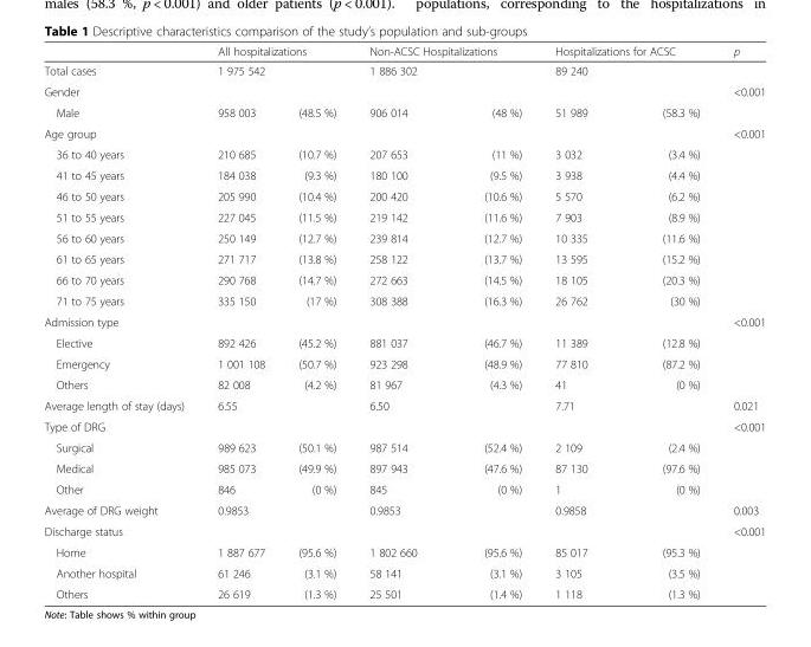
<table><thead><tr><td rowspan="2">Total cases</td><td colspan="2">All hospitalizations</td><td colspan="2">Non-ACSC Hospitalizations</td><td colspan="2">Hospitalizations for ACSC</td><td rowspan="2">p</td></tr><tr><td>1 975 542</td><td></td><td>1 886 302</td><td></td><td>89 240</td><td></td></tr></thead><tbody><tr><td>Gender</td><td></td><td></td><td></td><td></td><td></td><td></td><td>&lt;0.001</td></tr><tr><td>Male</td><td>958 003</td><td>(48.5 %)</td><td>906 014</td><td>(48 %)</td><td>51 989</td><td>(58.3 %)</td><td></td></tr><tr><td>Age group</td><td></td><td></td><td></td><td></td><td></td><td></td><td>&lt;0.001</td></tr><tr><td>36 to 40 years</td><td>210 685</td><td>(10.7 %)</td><td>207 653</td><td>(11 %)</td><td>3 032</td><td>(3.4 %)</td><td></td></tr><tr><td>41 to 45 years</td><td>184 038</td><td>(9.3 %)</td><td>180 100</td><td>(9.5 %)</td><td>3 938</td><td>(4.4 %)</td><td></td></tr><tr><td>46 to 50 years</td><td>205 990</td><td>(10.4 %)</td><td>200 420</td><td>(10.6 %)</td><td>5 570</td><td>(6.2 %)</td><td></td></tr><tr><td>51 to 55 years</td><td>227 045</td><td>(11.5 %)</td><td>219 142</td><td>(11.6 %)</td><td>7 903</td><td>(8.9 %)</td><td></td></tr><tr><td>56 to 60 years</td><td>250 149</td><td>(12.7 %)</td><td>239 814</td><td>(12.7 %)</td><td>10 335</td><td>(11.6 %)</td><td></td></tr><tr><td>61 to 65 years</td><td>271 717</td><td>(13.8 %)</td><td>258 122</td><td>(13.7 %)</td><td>13 595</td><td>(15.2 %)</td><td></td></tr><tr><td>66 to 70 years</td><td>290 768</td><td>(14.7 %)</td><td>272 663</td><td>(14.5 %)</td><td>18 105</td><td>(20.3 %)</td><td></td></tr><tr><td>71 to 75 years</td><td>335 150</td><td>(17 %)</td><td>308 388</td><td>(16.3 %)</td><td>26 762</td><td>(30 %)</td><td></td></tr><tr><td>Admission type</td><td></td><td></td><td></td><td></td><td></td><td></td><td>&lt;0.001</td></tr><tr><td>Elective</td><td>892 426</td><td>(45.2 %)</td><td>881 037</td><td>(46.7 %)</td><td>11 389</td><td>(12.8 %)</td><td></td></tr><tr><td>Emergency</td><td>1 001 108</td><td>(50.7 %)</td><td>923 298</td><td>(48.9 %)</td><td>77 810</td><td>(87.2 %)</td><td></td></tr><tr><td>Others</td><td>82 008</td><td>(4.2 %)</td><td>81 967</td><td>(4.3 %)</td><td>41</td><td>(0 %)</td><td></td></tr><tr><td>Average length of stay (days)</td><td>6.55</td><td></td><td>6.50</td><td></td><td>7.71</td><td></td><td>0.021</td></tr><tr><td>Type of DRG</td><td></td><td></td><td></td><td></td><td></td><td></td><td>&lt;0.001</td></tr><tr><td>Surgical</td><td>989 623</td><td>(50.1 %)</td><td>987 514</td><td>(52.4 %)</td><td>2 109</td><td>(2.4 %)</td><td></td></tr><tr><td>Medical</td><td>985 073</td><td>(49.9 %)</td><td>897 943</td><td>(47.6 %)</td><td>87 130</td><td>(97.6 %)</td><td></td></tr><tr><td>Other</td><td>846</td><td>(0 %)</td><td>845</td><td>(0 %)</td><td>1</td><td>(0 %)</td><td></td></tr><tr><td>Average of DRG weight</td><td>0.9853</td><td></td><td>0.9853</td><td></td><td>0.9858</td><td></td><td>0.003</td></tr><tr><td>Discharge status</td><td></td><td></td><td></td><td></td><td></td><td></td><td>&lt;0.001</td></tr><tr><td>Home</td><td>1 887 677</td><td>(95.6 %)</td><td>1 802 660</td><td>(95.6 %)</td><td>85 017</td><td>(95.3 %)</td><td></td></tr><tr><td>Another hospital</td><td>61 246</td><td>(3.1 %)</td><td>58 141</td><td>(3.1 %)</td><td>3 105</td><td>(3.5 %)</td><td></td></tr><tr><td>Others</td><td>26 619</td><td>(1.3 %)</td><td>25 501</td><td>(1.4 %)</td><td>1 118</td><td>(1.3 %)</td><td></td></tr></tbody></table>